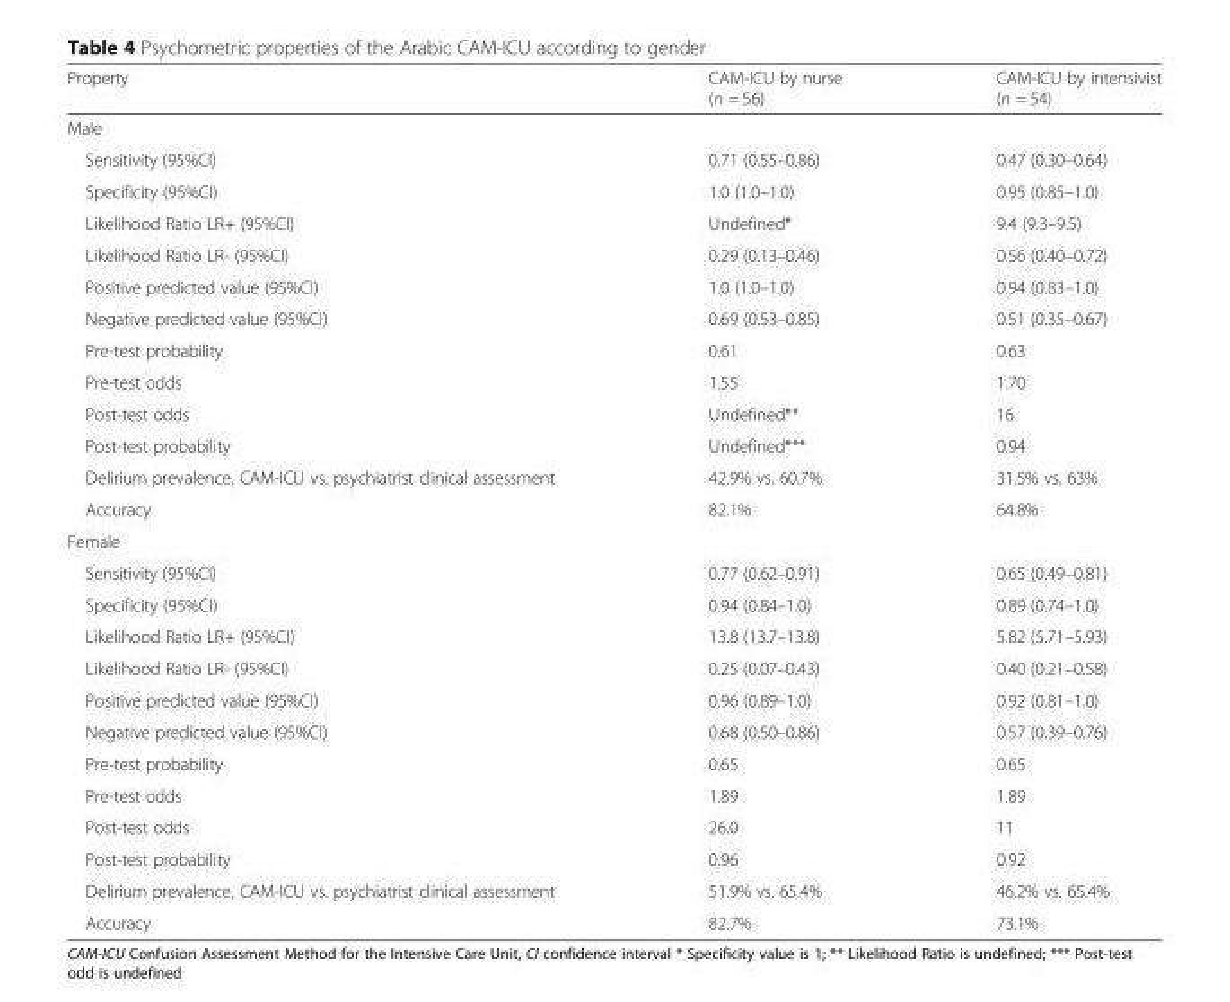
<table><thead><tr><td>Property</td><td>CAM-ICU by nurse (n = 56)</td><td>CAM-ICU by intensivist (n = 54)</td></tr></thead><tbody><tr><td colspan="3">Male</td></tr><tr><td>Sensitivity (95%CI)</td><td>0.71 (0.55–0.86)</td><td>0.47 (0.30–0.64)</td></tr><tr><td>Specificity (95%CI)</td><td>1.0 (1.0–1.0)</td><td>0.95 (0.85–1.0)</td></tr><tr><td>Likelihood Ratio LR+ (95%CI)</td><td>Undefined*</td><td>9.4 (9.3–9.5)</td></tr><tr><td>Likelihood Ratio LR- (95%CI)</td><td>0.29 (0.13–0.46)</td><td>0.56 (0.40–0.72)</td></tr><tr><td>Positive predicted value (95%CI)</td><td>1.0 (1.0–1.0)</td><td>0.94 (0.83–1.0)</td></tr><tr><td>Negative predicted value (95%CI)</td><td>0.69 (0.53–0.85)</td><td>0.51 (0.35–0.67)</td></tr><tr><td>Pre-test probability</td><td>0.61</td><td>0.63</td></tr><tr><td>Pre-test odds</td><td>1.55</td><td>1.70</td></tr><tr><td>Post-test odds</td><td>Undefined**</td><td>16</td></tr><tr><td>Post-test probability</td><td>Undefined***</td><td>0.94</td></tr><tr><td>Delirium prevalence, CAM-ICU vs. psychiatrist clinical assessment</td><td>42.9% vs. 60.7%</td><td>31.5% vs. 63%</td></tr><tr><td>Accuracy</td><td>82.1%</td><td>64.8%</td></tr><tr><td colspan="3">Female</td></tr><tr><td>Sensitivity (95%CI)</td><td>0.77 (0.62–0.91)</td><td>0.65 (0.49–0.81)</td></tr><tr><td>Specificity (95%CI)</td><td>0.94 (0.84–1.0)</td><td>0.89 (0.74–1.0)</td></tr><tr><td>Likelihood Ratio LR+ (95%CI)</td><td>13.8 (13.7–13.8)</td><td>5.82 (5.71–5.93)</td></tr><tr><td>Likelihood Ratio LR- (95%CI)</td><td>0.25 (0.07–0.43)</td><td>0.40 (0.21–0.58)</td></tr><tr><td>Positive predicted value (95%CI)</td><td>0.96 (0.89–1.0)</td><td>0.92 (0.81–1.0)</td></tr><tr><td>Negative predicted value (95%CI)</td><td>0.68 (0.50–0.86)</td><td>0.57 (0.39–0.76)</td></tr><tr><td>Pre-test probability</td><td>0.65</td><td>0.65</td></tr><tr><td>Pre-test odds</td><td>1.89</td><td>1.89</td></tr><tr><td>Post-test odds</td><td>26.0</td><td>11</td></tr><tr><td>Post-test probability</td><td>0.96</td><td>0.92</td></tr><tr><td>Delirium prevalence, CAM-ICU vs. psychiatrist clinical assessment</td><td>51.9% vs. 65.4%</td><td>46.2% vs. 65.4%</td></tr><tr><td>Accuracy</td><td>82.7%</td><td>73.1%</td></tr></tbody></table>